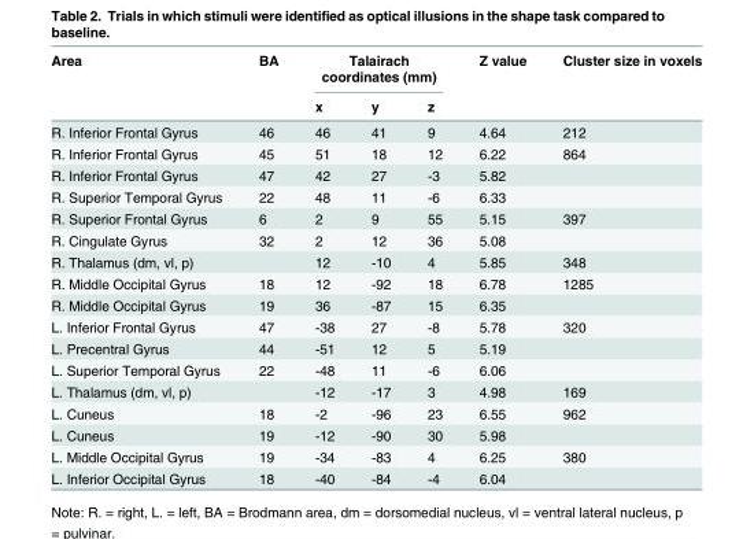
<table><thead><tr><td rowspan="2">Area</td><td rowspan="2">BA</td><td colspan="3">Talairach coordinates (mm)</td><td rowspan="2">Z value</td><td rowspan="2">Cluster size in voxels</td></tr><tr><td>x</td><td>y</td><td>z</td></tr></thead><tbody><tr><td>R. Inferior Frontal Gyrus</td><td>46</td><td>46</td><td>41</td><td>9</td><td>4.64</td><td>212</td></tr><tr><td>R. Inferior Frontal Gyrus</td><td>45</td><td>51</td><td>18</td><td>12</td><td>6.22</td><td>864</td></tr><tr><td>R. Inferior Frontal Gyrus</td><td>47</td><td>42</td><td>27</td><td>-3</td><td>5.82</td><td></td></tr><tr><td>R. Superior Temporal Gyrus</td><td>22</td><td>48</td><td>11</td><td>-6</td><td>6.33</td><td></td></tr><tr><td>R. Superior Frontal Gyrus</td><td>6</td><td>2</td><td>9</td><td>55</td><td>5.15</td><td>397</td></tr><tr><td>R. Cingulate Gyrus</td><td>32</td><td>2</td><td>12</td><td>36</td><td>5.08</td><td></td></tr><tr><td>R. Thalamus (dm, vl, p)</td><td></td><td>12</td><td>-10</td><td>4</td><td>5.85</td><td>348</td></tr><tr><td>R. Middle Occipital Gyrus</td><td>18</td><td>12</td><td>-92</td><td>18</td><td>6.78</td><td>1285</td></tr><tr><td>R. Middle Occipital Gyrus</td><td>19</td><td>36</td><td>-87</td><td>15</td><td>6.35</td><td></td></tr><tr><td>L. Inferior Frontal Gyrus</td><td>47</td><td>-38</td><td>27</td><td>-8</td><td>5.78</td><td>320</td></tr><tr><td>L. Precentral Gyrus</td><td>44</td><td>-51</td><td>12</td><td>5</td><td>5.19</td><td></td></tr><tr><td>L. Superior Temporal Gyrus</td><td>22</td><td>-48</td><td>11</td><td>-6</td><td>6.06</td><td></td></tr><tr><td>L. Thalamus (dm, vl, p)</td><td></td><td>-12</td><td>-17</td><td>3</td><td>4.98</td><td>169</td></tr><tr><td>L. Cuneus</td><td>18</td><td>-2</td><td>-96</td><td>23</td><td>6.55</td><td>962</td></tr><tr><td>L. Cuneus</td><td>19</td><td>-12</td><td>-90</td><td>30</td><td>5.98</td><td></td></tr><tr><td>L. Middle Occipital Gyrus</td><td>19</td><td>-34</td><td>-83</td><td>4</td><td>6.25</td><td>380</td></tr><tr><td>L. Inferior Occipital Gyrus</td><td>18</td><td>-40</td><td>-84</td><td>-4</td><td>6.04</td><td></td></tr></tbody></table>